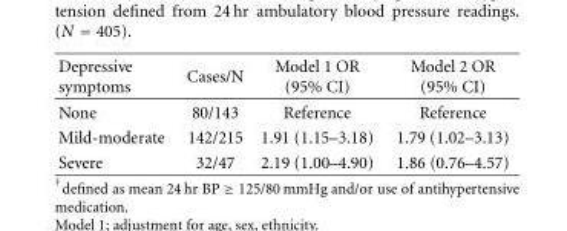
<table><thead><tr><td>Depressive symptoms</td><td>Cases/N</td><td>Model 1 OR (95% CI)</td><td>Model 2 OR (95% CI)</td></tr></thead><tbody><tr><td>None</td><td>80/143</td><td>Reference</td><td>Reference</td></tr><tr><td>Mild-moderate</td><td>142/215</td><td>1.91 (1.15–3.18)</td><td>1.79 (1.02–3.13)</td></tr><tr><td>Severe</td><td>32/47</td><td>2.19 (1.00–4.90)</td><td>1.86 (0.76–4.57)</td></tr></tbody></table>